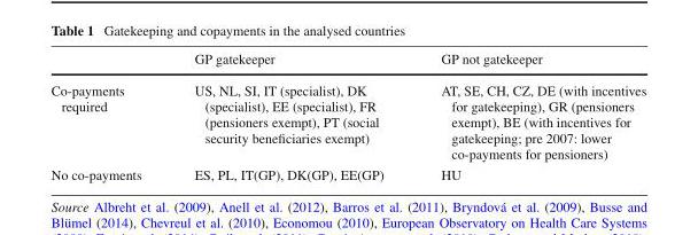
<table><thead><tr><td></td><td>GP gatekeeper</td><td>GP not gatekeeper</td></tr></thead><tbody><tr><td>Co-payments required</td><td>US, NL, SI, IT (specialist), DK (specialist), EE (specialist), FR (pensioners exempt), PT (social security beneficiaries exempt)</td><td>AT, SE, CH, CZ, DE (with incentives for gatekeeping), GR (pensioners exempt), BE (with incentives for gatekeeping; pre 2007: lower co-payments for pensioners)</td></tr><tr><td>No co-payments</td><td>ES, PL, IT(GP), DK(GP), EE(GP)</td><td>HU</td></tr></tbody></table>